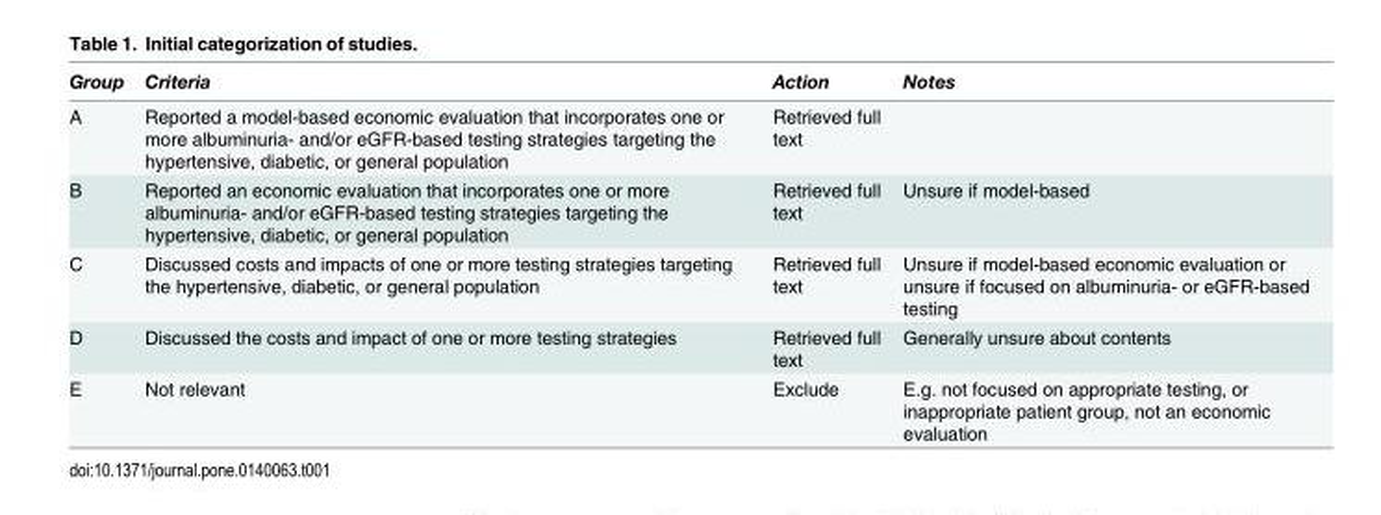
<table><thead><tr><td>Group</td><td>Criteria</td><td>Action</td><td>Notes</td></tr></thead><tbody><tr><td>A</td><td>Reported a model-based economic evaluation that incorporates one or more albuminuria- and/or eGFR-based testing strategies targeting the hypertensive, diabetic, or general population</td><td>Retrieved full text</td><td></td></tr><tr><td>B</td><td>Reported an economic evaluation that incorporates one or more albuminuria- and/or eGFR-based testing strategies targeting the hypertensive, diabetic, or general population</td><td>Retrieved full text</td><td>Unsure if model-based</td></tr><tr><td>C</td><td>Discussed costs and impacts of one or more testing strategies targeting the hypertensive, diabetic, or general population</td><td>Retrieved full text</td><td>Unsure if model-based economic evaluation or unsure if focused on albuminuria- or eGFR-based testing</td></tr><tr><td>D</td><td>Discussed the costs and impact of one or more testing strategies</td><td>Retrieved full text</td><td>Generally unsure about contents</td></tr><tr><td>E</td><td>Not relevant</td><td>Exclude</td><td>E.g. not focused on appropriate testing, or inappropriate patient group, not an economic evaluation</td></tr></tbody></table>